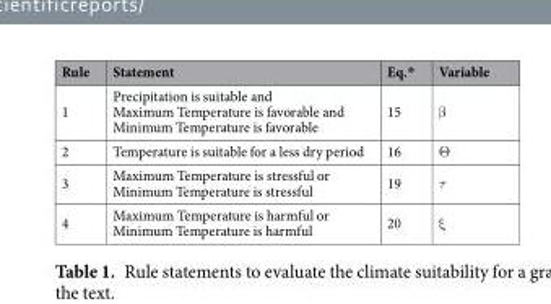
<table><thead><tr><td>Rule</td><td>Statement</td><td>Eq.*</td><td>Variable</td></tr></thead><tbody><tr><td>1</td><td>Precipitation is suitable and Maximum Temperature is favorable and Minimum Temperature is favorable</td><td>15</td><td>β</td></tr><tr><td>2</td><td>Temperature is suitable for a less dry period</td><td>16</td><td>Θ</td></tr><tr><td>3</td><td>Maximum Temperature is stressful or Minimum Temperature is stressful</td><td>19</td><td>τ</td></tr><tr><td>4</td><td>Maximum Temperature is harmful or Minimum Temperature is harmful</td><td>20</td><td>ξ</td></tr></tbody></table>